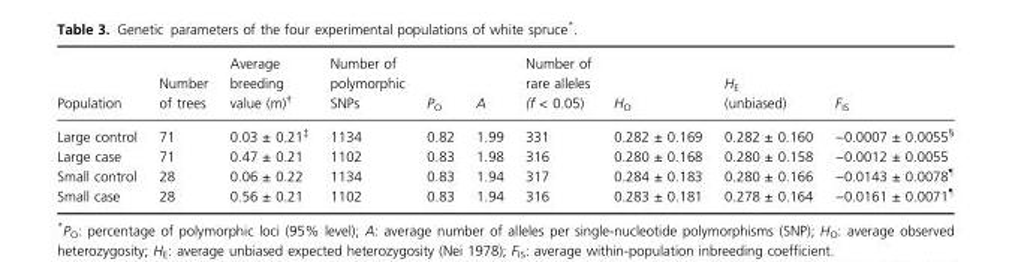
<table><thead><tr><td>Population</td><td>Number of trees</td><td>Average breeding value (m)†</td><td>Number of polymorphic SNPs</td><td>P<sub>O</sub></td><td>A</td><td>Number of rare alleles (f &lt; 0.05)</td><td>H<sub>O</sub></td><td>H<sub>E</sub> (unbiased)</td><td>F<sub>IS</sub></td></tr></thead><tbody><tr><td>Large control</td><td>71</td><td>0.03 ± 0.21‡</td><td>1134</td><td>0.82</td><td>1.99</td><td>331</td><td>0.282 ± 0.169</td><td>0.282 ± 0.160</td><td>−0.0007 ± 0.0055§</td></tr><tr><td>Large case</td><td>71</td><td>0.47 ± 0.21</td><td>1102</td><td>0.83</td><td>1.98</td><td>316</td><td>0.280 ± 0.168</td><td>0.280 ± 0.158</td><td>−0.0012 ± 0.0055</td></tr><tr><td>Small control</td><td>28</td><td>0.06 ± 0.22</td><td>1134</td><td>0.83</td><td>1.94</td><td>317</td><td>0.284 ± 0.183</td><td>0.280 ± 0.166</td><td>)0.0143 ± 0.0078–</td></tr><tr><td>Small case</td><td>28</td><td>0.56 ± 0.21</td><td>1102</td><td>0.83</td><td>1.94</td><td>316</td><td>0.283 ± 0.181</td><td>0.278 ± 0.164</td><td>)0.0161 ± 0.0071–</td></tr></tbody></table>